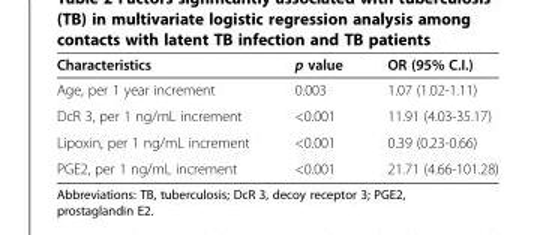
<table><thead><tr><td>Characteristics</td><td>p value</td><td>OR (95% C.I.)</td></tr></thead><tbody><tr><td>Age, per 1 year increment</td><td>0.003</td><td>1.07 (1.02-1.11)</td></tr><tr><td>DcR 3, per 1 ng/mL increment</td><td>&lt;0.001</td><td>11.91 (4.03-35.17)</td></tr><tr><td>Lipoxin, per 1 ng/mL increment</td><td>&lt;0.001</td><td>0.39 (0.23-0.66)</td></tr><tr><td>PGE2, per 1 ng/mL increment</td><td>&lt;0.001</td><td>21.71 (4.66-101.28)</td></tr></tbody></table>